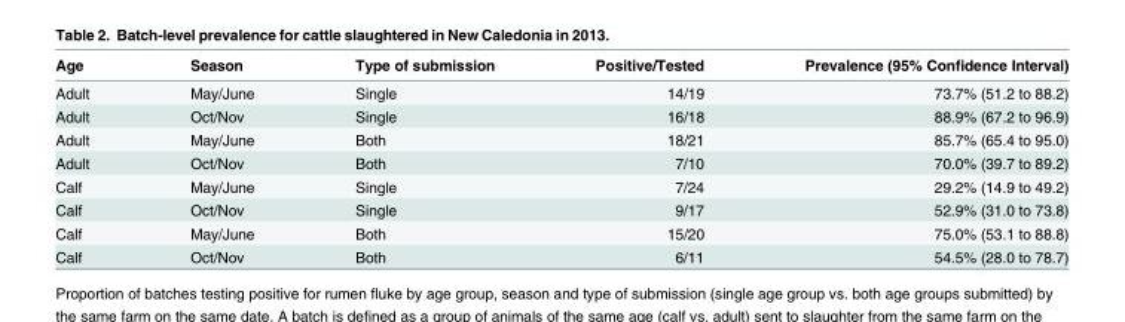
<table><thead><tr><td>Age</td><td>Season</td><td>Type of submission</td><td>Positive/Tested</td><td>Prevalence (95% Confidence Interval)</td></tr></thead><tbody><tr><td>Adult</td><td>May/June</td><td>Single</td><td>14/19</td><td>73.7% (51.2 to 88.2)</td></tr><tr><td>Adult</td><td>Oct/Nov</td><td>Single</td><td>16/18</td><td>88.9% (67.2 to 96.9)</td></tr><tr><td>Adult</td><td>May/June</td><td>Both</td><td>18/21</td><td>85.7% (65.4 to 95.0)</td></tr><tr><td>Adult</td><td>Oct/Nov</td><td>Both</td><td>7/10</td><td>70.0% (39.7 to 89.2)</td></tr><tr><td>Calf</td><td>May/June</td><td>Single</td><td>7/24</td><td>29.2% (14.9 to 49.2)</td></tr><tr><td>Calf</td><td>Oct/Nov</td><td>Single</td><td>9/17</td><td>52.9% (31.0 to 73.8)</td></tr><tr><td>Calf</td><td>May/June</td><td>Both</td><td>15/20</td><td>75.0% (53.1 to 88.8)</td></tr><tr><td>Calf</td><td>Oct/Nov</td><td>Both</td><td>6/11</td><td>54.5% (28.0 to 78.7)</td></tr></tbody></table>